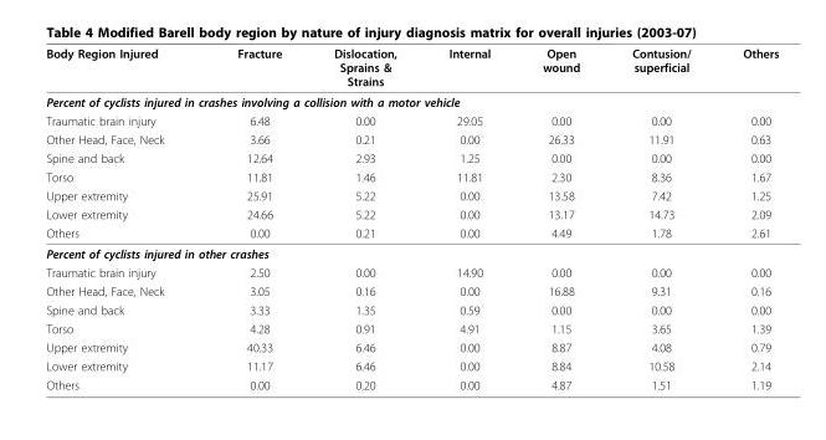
<table><thead><tr><td>Body Region Injured</td><td>Fracture</td><td>Dislocation, Sprains &amp; Strains</td><td>Internal</td><td>Open wound</td><td>Contusion/ superficial</td><td>Others</td></tr></thead><tbody><tr><td colspan="7">Percent of cyclists injured in crashes involving a collision with a motor vehicle</td></tr><tr><td>Traumatic brain injury</td><td>6.48</td><td>0.00</td><td>29.05</td><td>0.00</td><td>0.00</td><td>0.00</td></tr><tr><td>Other Head, Face, Neck</td><td>3.66</td><td>0.21</td><td>0.00</td><td>26.33</td><td>11.91</td><td>0.63</td></tr><tr><td>Spine and back</td><td>12.64</td><td>2.93</td><td>1.25</td><td>0.00</td><td>0.00</td><td>0.00</td></tr><tr><td>Torso</td><td>11.81</td><td>1.46</td><td>11.81</td><td>2.30</td><td>8.36</td><td>1.67</td></tr><tr><td>Upper extremity</td><td>25.91</td><td>5.22</td><td>0.00</td><td>13.58</td><td>7.42</td><td>1.25</td></tr><tr><td>Lower extremity</td><td>24.66</td><td>5.22</td><td>0.00</td><td>13.17</td><td>14.73</td><td>2.09</td></tr><tr><td>Others</td><td>0.00</td><td>0.21</td><td>0.00</td><td>4.49</td><td>1.78</td><td>2.61</td></tr><tr><td colspan="7">Percent of cyclists injured in other crashes</td></tr><tr><td>Traumatic brain injury</td><td>2.50</td><td>0.00</td><td>14.90</td><td>0.00</td><td>0.00</td><td>0.00</td></tr><tr><td>Other Head, Face, Neck</td><td>3.05</td><td>0.16</td><td>0.00</td><td>16.88</td><td>9.31</td><td>0.16</td></tr><tr><td>Spine and back</td><td>3.33</td><td>1.35</td><td>0.59</td><td>0.00</td><td>0.00</td><td>0.00</td></tr><tr><td>Torso</td><td>4.28</td><td>0.91</td><td>4.91</td><td>1.15</td><td>3.65</td><td>1.39</td></tr><tr><td>Upper extremity</td><td>40.33</td><td>6.46</td><td>0.00</td><td>8.87</td><td>4.08</td><td>0.79</td></tr><tr><td>Lower extremity</td><td>11.17</td><td>6.46</td><td>0.00</td><td>8.84</td><td>10.58</td><td>2.14</td></tr><tr><td>Others</td><td>0.00</td><td>0.20</td><td>0.00</td><td>4.87</td><td>1.51</td><td>1.19</td></tr></tbody></table>